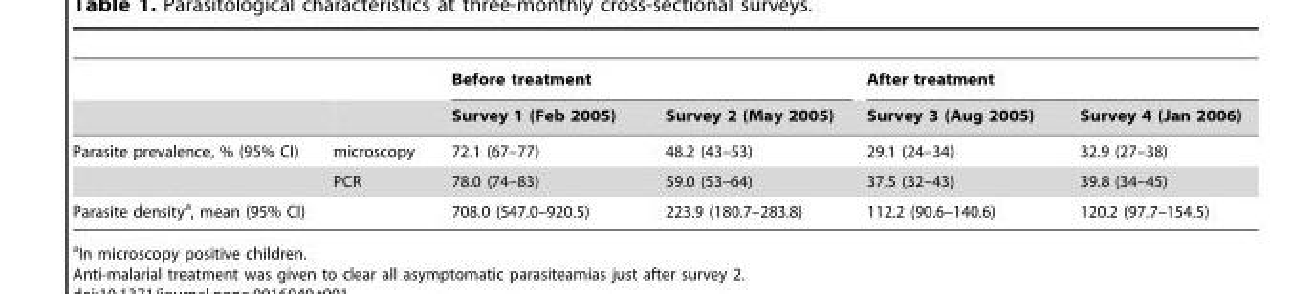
<table><thead><tr><td rowspan="2"></td><td rowspan="2"></td><td colspan="2">Before treatment</td><td colspan="2">After treatment</td></tr><tr><td>Survey 1 (Feb 2005)</td><td>Survey 2 (May 2005)</td><td>Survey 3 (Aug 2005)</td><td>Survey 4 (Jan 2006)</td></tr></thead><tbody><tr><td rowspan="2">Parasite prevalence, % (95% CI)</td><td>microscopy</td><td>72.1 (67–77)</td><td>48.2 (43–53)</td><td>29.1 (24–34)</td><td>32.9 (27–38)</td></tr><tr><td>PCR</td><td>78.0 (74–83)</td><td>59.0 (53–64)</td><td>37.5 (32–43)</td><td>39.8 (34–45)</td></tr><tr><td>Parasite density<sup>a</sup>, mean (95% CI)</td><td></td><td>708.0 (547.0–920.5)</td><td>223.9 (180.7–283.8)</td><td>112.2 (90.6–140.6)</td><td>120.2 (97.7–154.5)</td></tr></tbody></table>